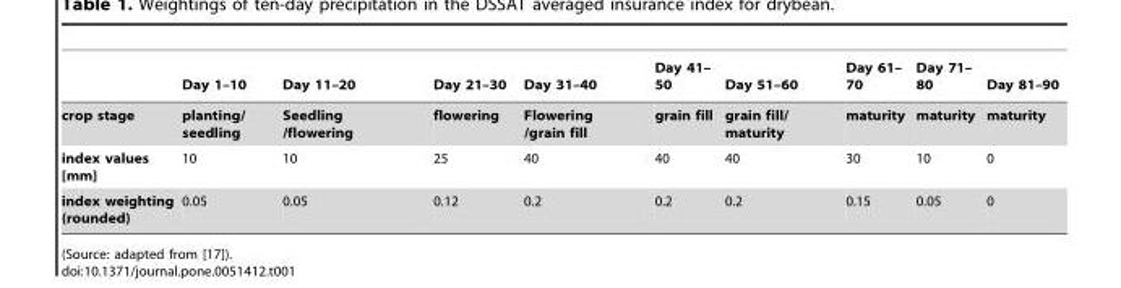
<table><thead><tr><td></td><td>Day 1–10</td><td>Day 11–20</td><td>Day 21–30</td><td>Day 31–40</td><td>Day 41– 50</td><td>Day 51–60</td><td>Day 61– 70</td><td>Day 71– 80</td><td>Day 81–90</td></tr></thead><tbody><tr><td>crop stage</td><td>planting/ seedling</td><td>Seedling /flowering</td><td>flowering</td><td>Flowering /grain fill</td><td>grain fill</td><td>grain fill/ maturity</td><td>maturity</td><td>maturity</td><td>maturity</td></tr><tr><td>index values [mm]</td><td>10</td><td>10</td><td>25</td><td>40</td><td>40</td><td>40</td><td>30</td><td>10</td><td>0</td></tr><tr><td>index weighting (rounded)</td><td>0.05</td><td>0.05</td><td>0.12</td><td>0.2</td><td>0.2</td><td>0.2</td><td>0.15</td><td>0.05</td><td>0</td></tr></tbody></table>